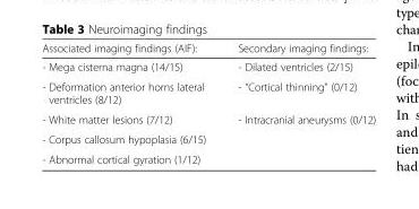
<table><thead><tr><td>Associated imaging findings (AIF):</td><td>Secondary imaging findings:</td></tr></thead><tbody><tr><td>- Mega cisterna magna (14/15)</td><td>- Dilated ventricles (2/15)</td></tr><tr><td>- Deformation anterior horns lateral ventricles (8/12)</td><td>- “Cortical thinning” (0/12)</td></tr><tr><td>- White matter lesions (7/12)</td><td>- Intracranial aneurysms (0/12)</td></tr><tr><td colspan="2">- Corpus callosum hypoplasia (6/15)</td></tr><tr><td>- Abnormal cortical gyration (1/12)</td><td></td></tr></tbody></table>